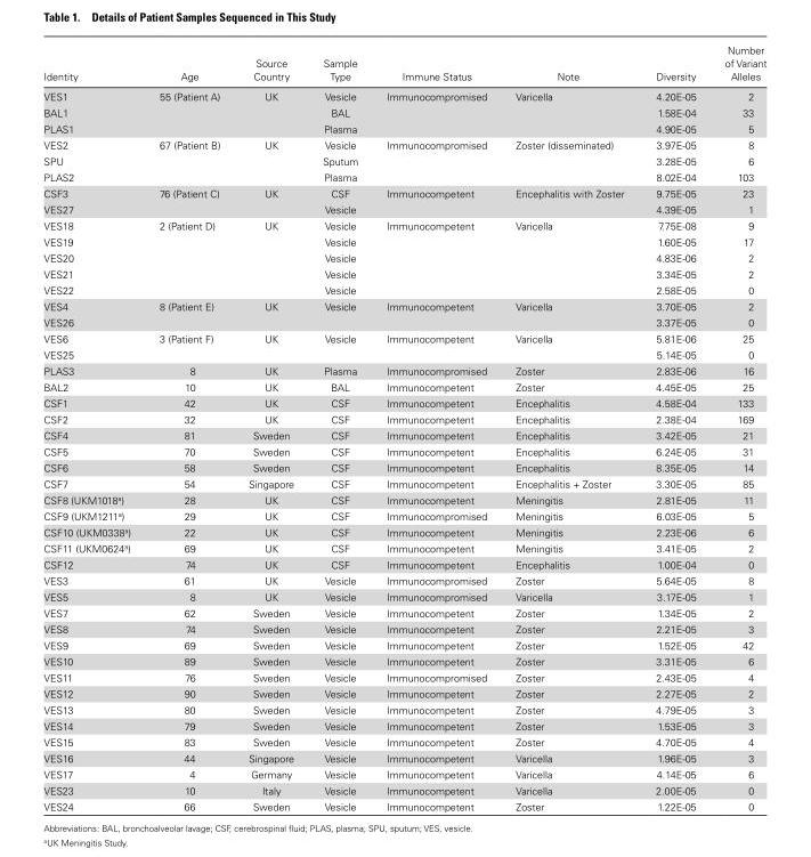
<table><thead><tr><td>Identity</td><td>Age</td><td>Source Country</td><td>Sample Type</td><td>Immune Status</td><td>Note</td><td>Diversity</td><td>Number of Variant Alleles</td></tr></thead><tbody><tr><td>VES1</td><td rowspan="3">55 (Patient A)</td><td rowspan="3">UK</td><td>Vesicle</td><td rowspan="3">Immunocompromised</td><td rowspan="3">Varicella</td><td>4.20E-05</td><td>2</td></tr><tr><td>BAL1</td><td>BAL</td><td>1.58E-04</td><td>33</td></tr><tr><td>PLAS1</td><td>Plasma</td><td>4.90E-05</td><td>5</td></tr><tr><td>VES2</td><td rowspan="3">67 (Patient B)</td><td rowspan="3">UK</td><td>Vesicle</td><td rowspan="3">Immunocompromised</td><td rowspan="3">Zoster (disseminated)</td><td>3.97E-05</td><td>8</td></tr><tr><td>SPU</td><td>Sputum</td><td>3.28E-05</td><td>6</td></tr><tr><td>PLAS2</td><td>Plasma</td><td>8.02E-04</td><td>103</td></tr><tr><td>CSF3</td><td rowspan="2">76 (Patient C)</td><td rowspan="2">UK</td><td>CSF</td><td rowspan="2">Immunocompetent</td><td rowspan="2">Encephalitis with Zoster</td><td>9.75E-05</td><td>23</td></tr><tr><td>VES27</td><td>Vesicle</td><td>4.39E-05</td><td>1</td></tr><tr><td>VES18</td><td rowspan="5">2 (Patient D)</td><td rowspan="5">UK</td><td>Vesicle</td><td rowspan="5">Immunocompetent</td><td rowspan="5">Varicella</td><td>7.75E-08</td><td>9</td></tr><tr><td>VES19</td><td>Vesicle</td><td>1.60E-05</td><td>17</td></tr><tr><td>VES20</td><td>Vesicle</td><td>4.83E-06</td><td>2</td></tr><tr><td>VES21</td><td>Vesicle</td><td>3.34E-05</td><td>2</td></tr><tr><td>VES22</td><td>Vesicle</td><td>2.58E-05</td><td>0</td></tr><tr><td>VES4</td><td rowspan="2">8 (Patient E)</td><td rowspan="2">UK</td><td rowspan="2">Vesicle</td><td rowspan="2">Immunocompetent</td><td rowspan="2">Varicella</td><td>3.70E-05</td><td>2</td></tr><tr><td>VES26</td><td>3.37E-05</td><td>0</td></tr><tr><td>VES6</td><td rowspan="2">3 (Patient F)</td><td rowspan="2">UK</td><td rowspan="2">Vesicle</td><td rowspan="2">Immunocompetent</td><td rowspan="2">Varicella</td><td>5.81E-06</td><td>25</td></tr><tr><td>VES25</td><td>5.14E-05</td><td>0</td></tr><tr><td>PLAS3</td><td>8</td><td>UK</td><td>Plasma</td><td>Immunocompromised</td><td>Zoster</td><td>2.83E-06</td><td>16</td></tr><tr><td>BAL2</td><td>10</td><td>UK</td><td>BAL</td><td>Immunocompetent</td><td>Zoster</td><td>4.45E-05</td><td>25</td></tr><tr><td>CSF1</td><td>42</td><td>UK</td><td>CSF</td><td>Immunocompetent</td><td>Encephalitis</td><td>4.58E-04</td><td>133</td></tr><tr><td>CSF2</td><td>32</td><td>UK</td><td>CSF</td><td>Immunocompetent</td><td>Encephalitis</td><td>2.38E-04</td><td>169</td></tr><tr><td>CSF4</td><td>81</td><td>Sweden</td><td>CSF</td><td>Immunocompetent</td><td>Encephalitis</td><td>3.42E-05</td><td>21</td></tr><tr><td>CSF5</td><td>70</td><td>Sweden</td><td>CSF</td><td>Immunocompetent</td><td>Encephalitis</td><td>6.24E-05</td><td>31</td></tr><tr><td>CSF6</td><td>58</td><td>Sweden</td><td>CSF</td><td>Immunocompetent</td><td>Encephalitis</td><td>8.35E-05</td><td>14</td></tr><tr><td>CSF7</td><td>54</td><td>Singapore</td><td>CSF</td><td>Immunocompetent</td><td>Encephalitis + Zoster</td><td>3.30E-05</td><td>85</td></tr><tr><td>CSF8 (UKM1018<sup>a</sup>)</td><td>28</td><td>UK</td><td>CSF</td><td>Immunocompetent</td><td>Meningitis</td><td>2.81E-05</td><td>11</td></tr><tr><td>CSF9 (UKM1211<sup>a</sup>)</td><td>29</td><td>UK</td><td>CSF</td><td>Immunocompromised</td><td>Meningitis</td><td>6.03E-05</td><td>5</td></tr><tr><td>CSF10 (UKM0338<sup>a</sup>)</td><td>22</td><td>UK</td><td>CSF</td><td>Immunocompetent</td><td>Meningitis</td><td>2.23E-06</td><td>6</td></tr><tr><td>CSF11 (UKM0624<sup>a</sup>)</td><td>69</td><td>UK</td><td>CSF</td><td>Immunocompetent</td><td>Meningitis</td><td>3.41E-05</td><td>2</td></tr><tr><td>CSF12</td><td>74</td><td>UK</td><td>CSF</td><td>Immunocompetent</td><td>Encephalitis</td><td>1.00E-04</td><td>0</td></tr><tr><td>VES3</td><td>61</td><td>UK</td><td>Vesicle</td><td>Immunocompromised</td><td>Zoster</td><td>5.64E-05</td><td>8</td></tr><tr><td>VES5</td><td>8</td><td>UK</td><td>Vesicle</td><td>Immunocompromised</td><td>Varicella</td><td>3.17E-05</td><td>1</td></tr><tr><td>VES7</td><td>62</td><td>Sweden</td><td>Vesicle</td><td>Immunocompetent</td><td>Zoster</td><td>1.34E-05</td><td>2</td></tr><tr><td>VES8</td><td>74</td><td>Sweden</td><td>Vesicle</td><td>Immunocompetent</td><td>Zoster</td><td>2.21E-05</td><td>3</td></tr><tr><td>VES9</td><td>69</td><td>Sweden</td><td>Vesicle</td><td>Immunocompetent</td><td>Zoster</td><td>1.52E-05</td><td>42</td></tr><tr><td>VES10</td><td>89</td><td>Sweden</td><td>Vesicle</td><td>Immunocompetent</td><td>Zoster</td><td>3.31E-05</td><td>6</td></tr><tr><td>VES11</td><td>76</td><td>Sweden</td><td>Vesicle</td><td>Immunocompromised</td><td>Zoster</td><td>2.43E-05</td><td>4</td></tr><tr><td>VES12</td><td>90</td><td>Sweden</td><td>Vesicle</td><td>Immunocompetent</td><td>Zoster</td><td>2.27E-05</td><td>2</td></tr><tr><td>VES13</td><td>80</td><td>Sweden</td><td>Vesicle</td><td>Immunocompetent</td><td>Zoster</td><td>4.79E-05</td><td>3</td></tr><tr><td>VES14</td><td>79</td><td>Sweden</td><td>Vesicle</td><td>Immunocompetent</td><td>Zoster</td><td>1.53E-05</td><td>3</td></tr><tr><td>VES15</td><td>83</td><td>Sweden</td><td>Vesicle</td><td>Immunocompetent</td><td>Zoster</td><td>4.70E-05</td><td>4</td></tr><tr><td>VES16</td><td>44</td><td>Singapore</td><td>Vesicle</td><td>Immunocompetent</td><td>Varicella</td><td>1.96E-05</td><td>3</td></tr><tr><td>VES17</td><td>4</td><td>Germany</td><td>Vesicle</td><td>Immunocompetent</td><td>Varicella</td><td>4.14E-05</td><td>6</td></tr><tr><td>VES23</td><td>10</td><td>Italy</td><td>Vesicle</td><td>Immunocompetent</td><td>Varicella</td><td>2.00E-05</td><td>0</td></tr><tr><td>VES24</td><td>66</td><td>Sweden</td><td>Vesicle</td><td>Immunocompetent</td><td>Zoster</td><td>1.22E-05</td><td>0</td></tr></tbody></table>